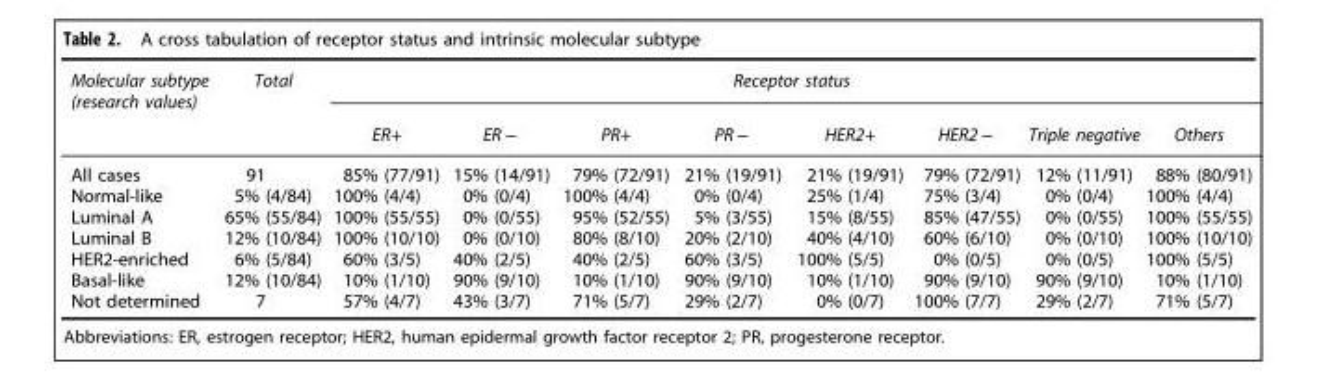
<table><thead><tr><td rowspan="2">Molecular subtype (research values)</td><td rowspan="2">Total</td><td colspan="8">Receptor status</td></tr><tr><td>ER+</td><td>ER −</td><td>PR+</td><td>PR −</td><td>HER2+</td><td>HER2 −</td><td>Triple negative</td><td>Others</td></tr></thead><tbody><tr><td>All cases</td><td>91</td><td>85% (77/91)</td><td>15% (14/91)</td><td>79% (72/91)</td><td>21% (19/91)</td><td>21% (19/91)</td><td>79% (72/91)</td><td>12% (11/91)</td><td>88% (80/91)</td></tr><tr><td>Normal-like</td><td>5% (4/84)</td><td>100% (4/4)</td><td>0% (0/4)</td><td>100% (4/4)</td><td>0% (0/4)</td><td>25% (1/4)</td><td>75% (3/4)</td><td>0% (0/4)</td><td>100% (4/4)</td></tr><tr><td>Luminal A</td><td>65% (55/84)</td><td>100% (55/55)</td><td>0% (0/55)</td><td>95% (52/55)</td><td>5% (3/55)</td><td>15% (8/55)</td><td>85% (47/55)</td><td>0% (0/55)</td><td>100% (55/55)</td></tr><tr><td>Luminal B</td><td>12% (10/84)</td><td>100% (10/10)</td><td>0% (0/10)</td><td>80% (8/10)</td><td>20% (2/10)</td><td>40% (4/10)</td><td>60% (6/10)</td><td>0% (0/10)</td><td>100% (10/10)</td></tr><tr><td>HER2-enriched</td><td>6% (5/84)</td><td>60% (3/5)</td><td>40% (2/5)</td><td>40% (2/5)</td><td>60% (3/5)</td><td>100% (5/5)</td><td>0% (0/5)</td><td>0% (0/5)</td><td>100% (5/5)</td></tr><tr><td>Basal-like</td><td>12% (10/84)</td><td>10% (1/10)</td><td>90% (9/10)</td><td>10% (1/10)</td><td>90% (9/10)</td><td>10% (1/10)</td><td>90% (9/10)</td><td>90% (9/10)</td><td>10% (1/10)</td></tr><tr><td>Not determined</td><td>7</td><td>57% (4/7)</td><td>43% (3/7)</td><td>71% (5/7)</td><td>29% (2/7)</td><td>0% (0/7)</td><td>100% (7/7)</td><td>29% (2/7)</td><td>71% (5/7)</td></tr></tbody></table>